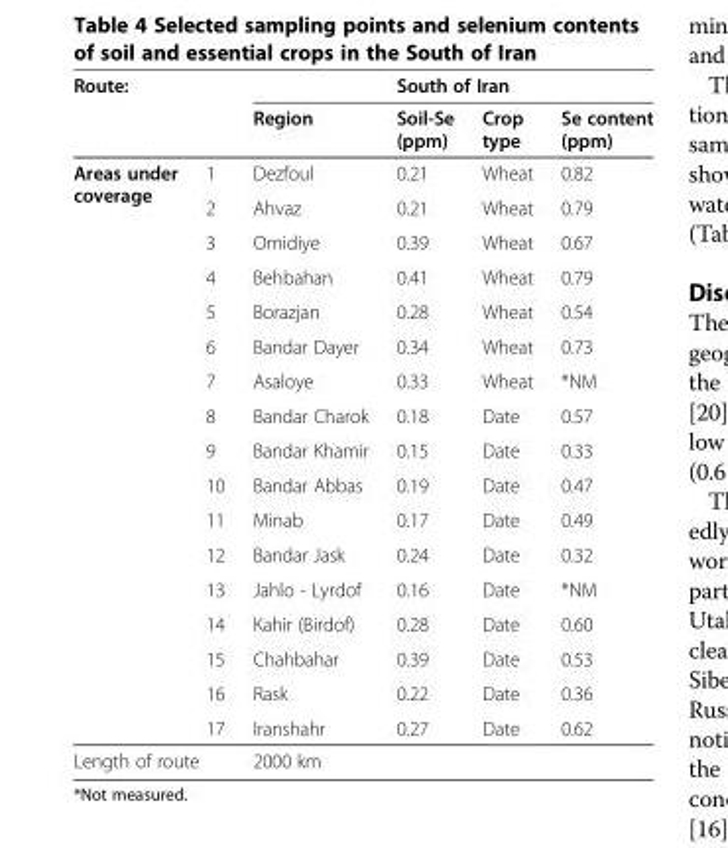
<table><thead><tr><td colspan="2">Route:</td><td colspan="4">South of Iran</td></tr><tr><td></td><td></td><td>Region</td><td>Soil-Se (ppm)</td><td>Crop type</td><td>Se content (ppm)</td></tr></thead><tbody><tr><td rowspan="17">Areas under coverage</td><td>1</td><td>Dezfoul</td><td>0.21</td><td>Wheat</td><td>0.82</td></tr><tr><td>2</td><td>Ahvaz</td><td>0.21</td><td>Wheat</td><td>0.79</td></tr><tr><td>3</td><td>Omidiye</td><td>0.39</td><td>Wheat</td><td>0.67</td></tr><tr><td>4</td><td>Behbahan</td><td>0.41</td><td>Wheat</td><td>0.79</td></tr><tr><td>5</td><td>Borazjan</td><td>0.28</td><td>Wheat</td><td>0.54</td></tr><tr><td>6</td><td>Bandar Dayer</td><td>0.34</td><td>Wheat</td><td>0.73</td></tr><tr><td>7</td><td>Asaloye</td><td>0.33</td><td>Wheat</td><td>*NM</td></tr><tr><td>8</td><td>Bandar Charok</td><td>0.18</td><td>Date</td><td>0.57</td></tr><tr><td>9</td><td>Bandar Khamir</td><td>0.15</td><td>Date</td><td>0.33</td></tr><tr><td>10</td><td>Bandar Abbas</td><td>0.19</td><td>Date</td><td>0.47</td></tr><tr><td>11</td><td>Minab</td><td>0.17</td><td>Date</td><td>0.49</td></tr><tr><td>12</td><td>Bandar Jask</td><td>0.24</td><td>Date</td><td>0.32</td></tr><tr><td>13</td><td>Jahlo - Lyrdof</td><td>0.16</td><td>Date</td><td>*NM</td></tr><tr><td>14</td><td>Kahir (Birdof)</td><td>0.28</td><td>Date</td><td>0.60</td></tr><tr><td>15</td><td>Chahbahar</td><td>0.39</td><td>Date</td><td>0.53</td></tr><tr><td>16</td><td>Rask</td><td>0.22</td><td>Date</td><td>0.36</td></tr><tr><td>17</td><td>Iranshahr</td><td>0.27</td><td>Date</td><td>0.62</td></tr><tr><td colspan="2">Length of route</td><td colspan="4">2000 km</td></tr></tbody></table>